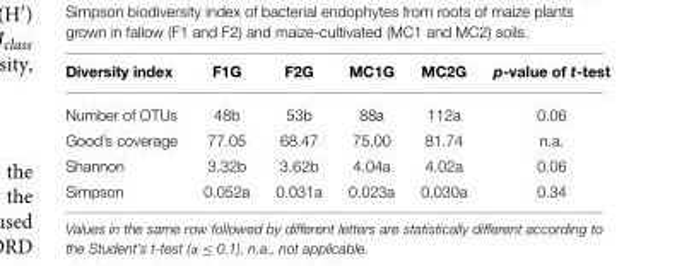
<table><thead><tr><td>Diversity index</td><td>F1G</td><td>F2G</td><td>MC1G</td><td>MC2G</td><td>p-value of t-test</td></tr></thead><tbody><tr><td>Number of OTUs</td><td>48b</td><td>53b</td><td>88a</td><td>112a</td><td>0.06</td></tr><tr><td>Good’s coverage</td><td>77.05</td><td>68.47</td><td>75.00</td><td>81.74</td><td>n.a.</td></tr><tr><td>Shannon</td><td>3.32b</td><td>3.62b</td><td>4.04a</td><td>4.02a</td><td>0.06</td></tr><tr><td>Simpson</td><td>0.052a</td><td>0.031a</td><td>0.023a</td><td>0.030a</td><td>0.34</td></tr></tbody></table>